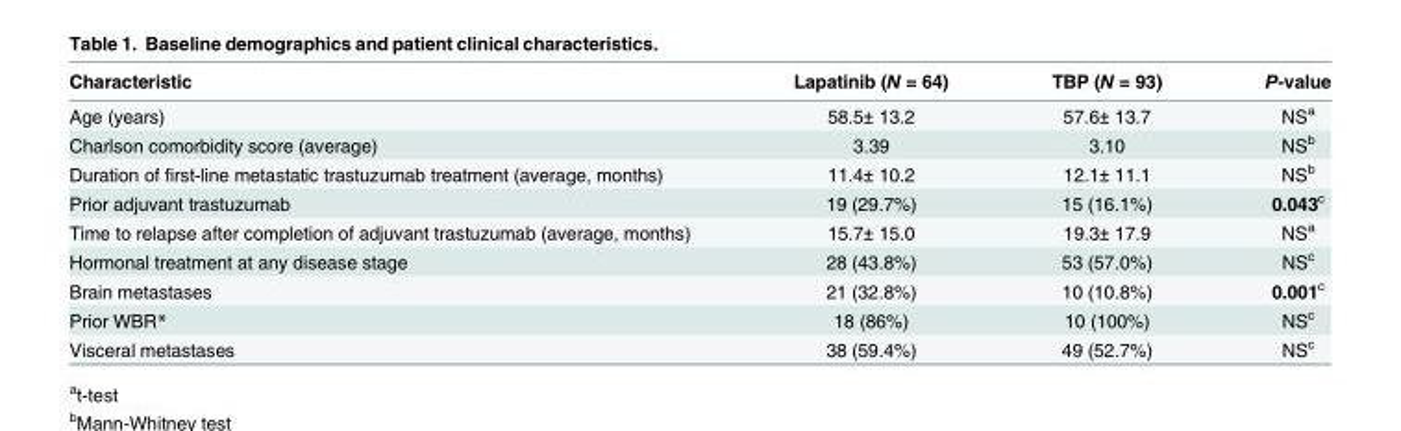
<table><thead><tr><td>Characteristic</td><td>Lapatinib (N = 64)</td><td>TBP (N = 93)</td><td>P-value</td></tr></thead><tbody><tr><td>Age (years)</td><td>58.5± 13.2</td><td>57.6± 13.7</td><td>NS<sup>a</sup></td></tr><tr><td>Charlson comorbidity score (average)</td><td>3.39</td><td>3.10</td><td>NS<sup>b</sup></td></tr><tr><td>Duration of first-line metastatic trastuzumab treatment (average, months)</td><td>11.4± 10.2</td><td>12.1± 11.1</td><td>NS<sup>b</sup></td></tr><tr><td>Prior adjuvant trastuzumab</td><td>19 (29.7%)</td><td>15 (16.1%)</td><td>0.043<sup>c</sup></td></tr><tr><td>Time to relapse after completion of adjuvant trastuzumab (average, months)</td><td>15.7± 15.0</td><td>19.3± 17.9</td><td>NS<sup>a</sup></td></tr><tr><td>Hormonal treatment at any disease stage</td><td>28 (43.8%)</td><td>53 (57.0%)</td><td>NS<sup>c</sup></td></tr><tr><td>Brain metastases</td><td>21 (32.8%)</td><td>10 (10.8%)</td><td>0.001<sup>c</sup></td></tr><tr><td>Prior WBR*</td><td>18 (86%)</td><td>10 (100%)</td><td>NS<sup>c</sup></td></tr><tr><td>Visceral metastases</td><td>38 (59.4%)</td><td>49 (52.7%)</td><td>NS<sup>c</sup></td></tr></tbody></table>